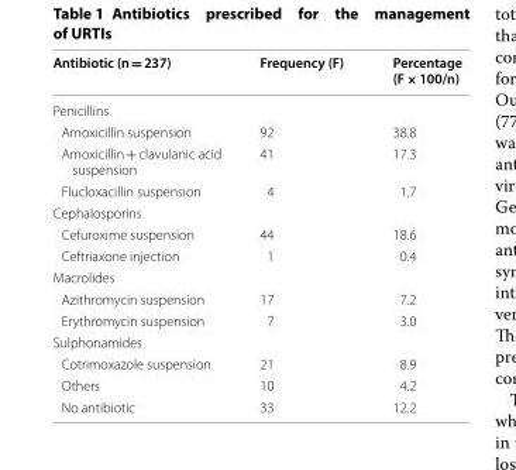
<table><thead><tr><td>Antibiotic (n = 237)</td><td>Frequency (F)</td><td>Percentage (F × 100/n)</td></tr></thead><tbody><tr><td colspan="3">Penicillins</td></tr><tr><td>Amoxicillin suspension</td><td>92</td><td>38.8</td></tr><tr><td>Amoxicillin + clavulanic acid suspension</td><td>41</td><td>17.3</td></tr><tr><td>Flucloxacillin suspension</td><td>4</td><td>1.7</td></tr><tr><td colspan="3">Cephalosporins</td></tr><tr><td>Cefuroxime suspension</td><td>44</td><td>18.6</td></tr><tr><td>Ceftriaxone injection</td><td>1</td><td>0.4</td></tr><tr><td colspan="3">Macrolides</td></tr><tr><td>Azithromycin suspension</td><td>17</td><td>7.2</td></tr><tr><td>Erythromycin suspension</td><td>7</td><td>3.0</td></tr><tr><td colspan="3">Sulphonamides</td></tr><tr><td>Cotrimoxazole suspension</td><td>21</td><td>8.9</td></tr><tr><td>Others</td><td>10</td><td>4.2</td></tr><tr><td>No antibiotic</td><td>33</td><td>12.2</td></tr></tbody></table>